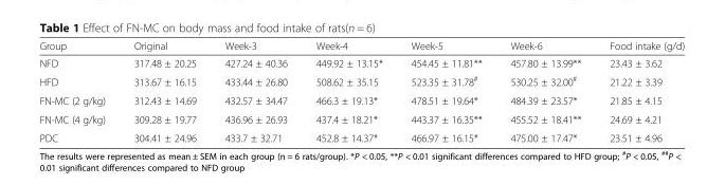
<table><thead><tr><td>Group</td><td>Original</td><td>Week-3</td><td>Week-4</td><td>Week-5</td><td>Week-6</td><td>Food intake (g/d)</td></tr></thead><tbody><tr><td>NFD</td><td>317.48 ± 20.25</td><td>427.24 ± 40.36</td><td>449.92 ± 13.15*</td><td>454.45 ± 11.81**</td><td>457.80 ± 13.99**</td><td>23.43 ± 3.62</td></tr><tr><td>HFD</td><td>313.67 ± 16.15</td><td>433.44 ± 26.80</td><td>508.62 ± 35.15</td><td>523.35 ± 31.78<sup>#</sup></td><td>530.25 ± 32.00<sup>#</sup></td><td>21.22 ± 3.39</td></tr><tr><td>FN-MC (2 g/kg)</td><td>312.43 ± 14.69</td><td>432.57 ± 34.47</td><td>466.3 ± 19.13*</td><td>478.51 ± 19.64*</td><td>484.39 ± 23.57*</td><td>21.85 ± 4.15</td></tr><tr><td>FN-MC (4 g/kg)</td><td>309.28 ± 19.77</td><td>436.96 ± 26.93</td><td>437.4 ± 18.21*</td><td>443.37 ± 16.35**</td><td>455.52 ± 18.41**</td><td>24.69 ± 4.21</td></tr><tr><td>PDC</td><td>304.41 ± 24.96</td><td>433.7 ± 32.71</td><td>452.8 ± 14.37*</td><td>466.97 ± 16.15*</td><td>475.00 ± 17.47*</td><td>23.51 ± 4.96</td></tr></tbody></table>